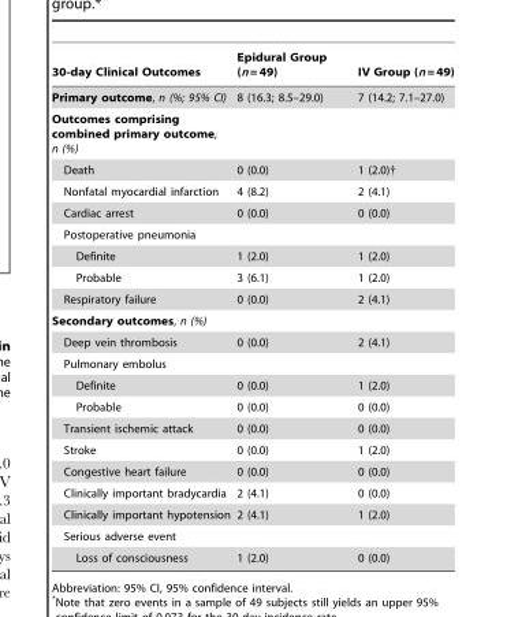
<table><thead><tr><td>30-day Clinical Outcomes</td><td>Epidural Group (n = 49)</td><td>IV Group (n = 49)</td></tr></thead><tbody><tr><td>Primary outcome, n (%; 95% CI)</td><td>8 (16.3; 8.5–29.0)</td><td>7 (14.2; 7.1–27.0)</td></tr><tr><td colspan="3">Outcomes comprising combined primary outcome, n (%)</td></tr><tr><td>Death</td><td>0 (0.0)</td><td>1 (2.0)†</td></tr><tr><td>Nonfatal myocardial infarction</td><td>4 (8.2)</td><td>2 (4.1)</td></tr><tr><td>Cardiac arrest</td><td>0 (0.0)</td><td>0 (0.0)</td></tr><tr><td colspan="3">Postoperative pneumonia</td></tr><tr><td>Definite</td><td>1 (2.0)</td><td>1 (2.0)</td></tr><tr><td>Probable</td><td>3 (6.1)</td><td>1 (2.0)</td></tr><tr><td>Respiratory failure</td><td>0 (0.0)</td><td>2 (4.1)</td></tr><tr><td colspan="3">Secondary outcomes, n (%)</td></tr><tr><td>Deep vein thrombosis</td><td>0 (0.0)</td><td>2 (4.1)</td></tr><tr><td colspan="3">Pulmonary embolus</td></tr><tr><td>Definite</td><td>0 (0.0)</td><td>1 (2.0)</td></tr><tr><td>Probable</td><td>0 (0.0)</td><td>0 (0.0)</td></tr><tr><td>Transient ischemic attack</td><td>0 (0.0)</td><td>0 (0.0)</td></tr><tr><td>Stroke</td><td>0 (0.0)</td><td>1 (2.0)</td></tr><tr><td>Congestive heart failure</td><td>0 (0.0)</td><td>0 (0.0)</td></tr><tr><td>Clinically important bradycardia</td><td>2 (4.1)</td><td>0 (0.0)</td></tr><tr><td>Clinically important hypotension</td><td>2 (4.1)</td><td>1 (2.0)</td></tr><tr><td colspan="3">Serious adverse event</td></tr><tr><td>Loss of consciousness</td><td>1 (2.0)</td><td>0 (0.0)</td></tr></tbody></table>